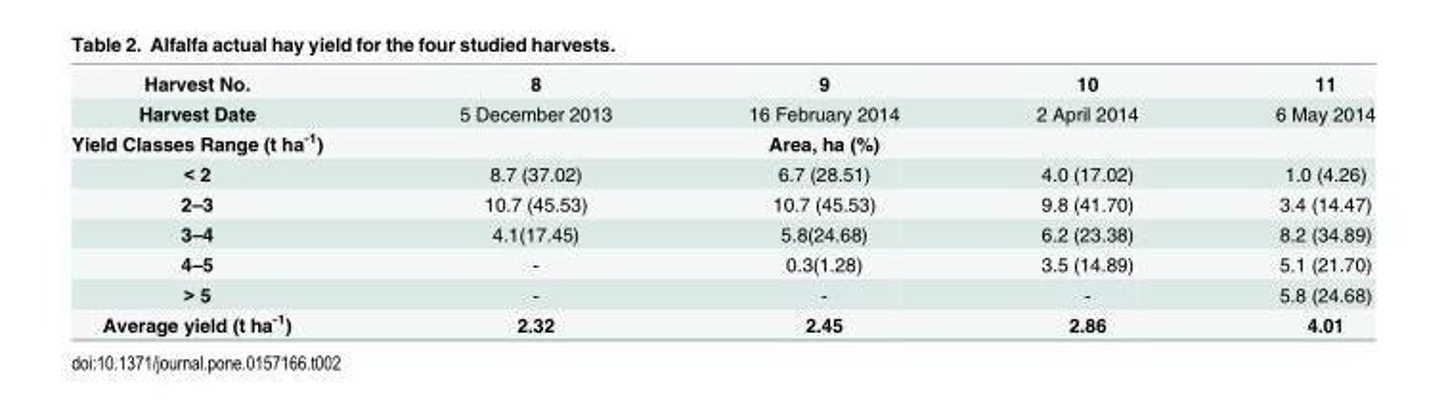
<table><tbody><tr><td>Harvest No.</td><td>8</td><td>9</td><td>10</td><td>11</td></tr><tr><td>Harvest Date</td><td>5 December 2013</td><td>16 February 2014</td><td>2 April 2014</td><td>6 May 2014</td></tr><tr><td>Yield Classes Range (t ha<sup>-1</sup>)</td><td></td><td>Area, ha (%)</td><td></td><td></td></tr><tr><td>&lt; 2</td><td>8.7 (37.02)</td><td>6.7 (28.51)</td><td>4.0 (17.02)</td><td>1.0 (4.26)</td></tr><tr><td>2–3</td><td>10.7 (45.53)</td><td>10.7 (45.53)</td><td>9.8 (41.70)</td><td>3.4 (14.47)</td></tr><tr><td>3–4</td><td>4.1(17.45)</td><td>5.8(24.68)</td><td>6.2 (23.38)</td><td>8.2 (34.89)</td></tr><tr><td>4–5</td><td>-</td><td>0.3(1.28)</td><td>3.5 (14.89)</td><td>5.1 (21.70)</td></tr><tr><td>&gt; 5</td><td>-</td><td>-</td><td>-</td><td>5.8 (24.68)</td></tr><tr><td>Average yield (t ha<sup>-1</sup>)</td><td>2.32</td><td>2.45</td><td>2.86</td><td>4.01</td></tr></tbody></table>